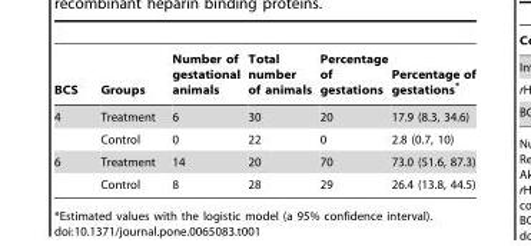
<table><thead><tr><td>BCS</td><td>Groups</td><td>Number of gestational animals</td><td>Total number of animals</td><td>Percentage of gestations</td><td>Percentage of gestations*</td></tr></thead><tbody><tr><td rowspan="2">4</td><td>Treatment</td><td>6</td><td>30</td><td>20</td><td>17.9 (8.3, 34.6)</td></tr><tr><td>Control</td><td>0</td><td>22</td><td>0</td><td>2.8 (0.7, 10)</td></tr><tr><td rowspan="2">6</td><td>Treatment</td><td>14</td><td>20</td><td>70</td><td>73.0 (51.6, 87.3)</td></tr><tr><td>Control</td><td>8</td><td>28</td><td>29</td><td>26.4 (13.8, 44.5)</td></tr></tbody></table>